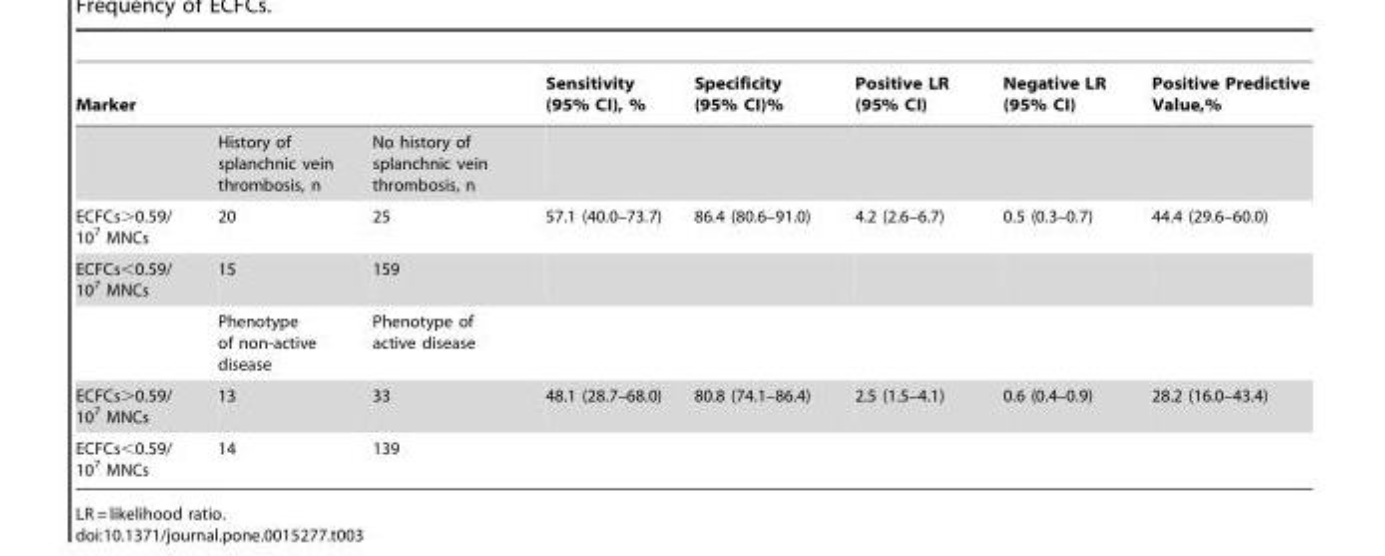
<table><thead><tr><td>Marker</td><td></td><td></td><td>Sensitivity (95% CI), %</td><td>Specificity (95% CI)%</td><td>Positive LR (95% CI)</td><td>Negative LR (95% CI)</td><td>Positive Predictive Value,%</td></tr></thead><tbody><tr><td></td><td>History of splanchnic vein thrombosis, n</td><td>No history of splanchnic vein thrombosis, n</td><td colspan="5"></td></tr><tr><td>ECFCs&gt;0.59/ 10<sup>7</sup> MNCs</td><td>20</td><td>25</td><td>57.1 (40.0–73.7)</td><td>86.4 (80.6–91.0)</td><td>4.2 (2.6–6.7)</td><td>0.5 (0.3–0.7)</td><td>44.4 (29.6–60.0)</td></tr><tr><td rowspan="2">ECFCs&lt;0.59/ 10<sup>7</sup> MNCs</td><td>15</td><td>159</td><td></td><td></td><td></td><td></td><td></td></tr><tr><td>Phenotype of non-active disease</td><td>Phenotype of active disease</td><td colspan="5"></td></tr><tr><td>ECFCs&gt;0.59/ 10<sup>7</sup> MNCs</td><td>13</td><td>33</td><td>48.1 (28.7–68.0)</td><td>80.8 (74.1–86.4)</td><td>2.5 (1.5–4.1)</td><td>0.6 (0.4–0.9)</td><td>28.2 (16.0–43.4)</td></tr><tr><td>ECFCs&lt;0.59/ 10<sup>7</sup> MNCs</td><td>14</td><td>139</td><td></td><td></td><td></td><td></td><td></td></tr></tbody></table>